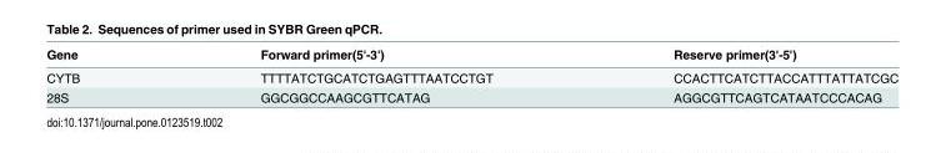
<table><thead><tr><td>Gene</td><td>Forward primer(5&#x27;-3&#x27;)</td><td>Reserve primer(3&#x27;-5&#x27;)</td></tr></thead><tbody><tr><td>CYTB</td><td>TTTTATCTGCATCTGAGTTTAATCCTGT</td><td>CCACTTCATCTTACCATTTATTATCGC</td></tr><tr><td>28S</td><td>GGCGGCCAAGCGTTCATAG</td><td>AGGCGTTCAGTCATAATCCCACAG</td></tr></tbody></table>